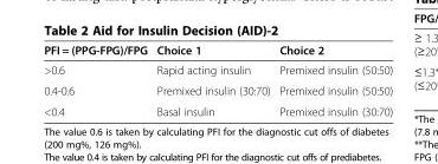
<table><thead><tr><td>PFI = (PPG-FPG)/FPG</td><td>Choice 1</td><td>Choice 2</td></tr></thead><tbody><tr><td>&gt;0.6</td><td>Rapid acting insulin</td><td>Premixed insulin (50:50)</td></tr><tr><td>0.4-0.6</td><td>Premixed insulin (30:70)</td><td>Premixed insulin (50:50)</td></tr><tr><td>&lt;0.4</td><td>Basal insulin</td><td>Premixed insulin (30:70)</td></tr></tbody></table>